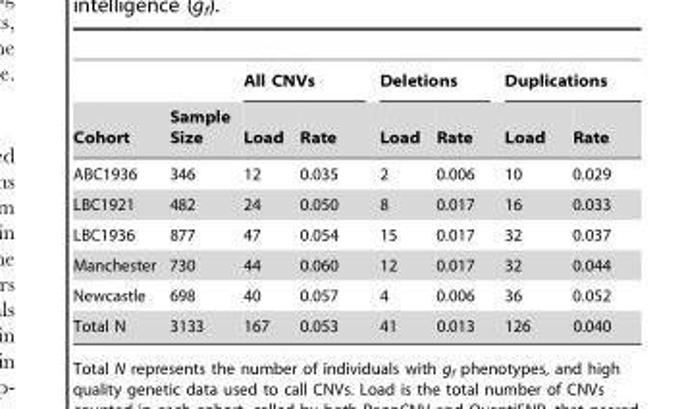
<table><thead><tr><td rowspan="2">Cohort</td><td rowspan="2">Sample Size</td><td colspan="2">All CNVs</td><td colspan="2">Deletions</td><td colspan="2">Duplications</td></tr><tr><td>Load</td><td>Rate</td><td>Load</td><td>Rate</td><td>Load</td><td>Rate</td></tr></thead><tbody><tr><td>ABC1936</td><td>346</td><td>12</td><td>0.035</td><td>2</td><td>0.006</td><td>10</td><td>0.029</td></tr><tr><td>LBC1921</td><td>482</td><td>24</td><td>0.050</td><td>8</td><td>0.017</td><td>16</td><td>0.033</td></tr><tr><td>LBC1936</td><td>877</td><td>47</td><td>0.054</td><td>15</td><td>0.017</td><td>32</td><td>0.037</td></tr><tr><td>Manchester</td><td>730</td><td>44</td><td>0.060</td><td>12</td><td>0.017</td><td>32</td><td>0.044</td></tr><tr><td>Newcastle</td><td>698</td><td>40</td><td>0.057</td><td>4</td><td>0.006</td><td>36</td><td>0.052</td></tr><tr><td>Total N</td><td>3133</td><td>167</td><td>0.053</td><td>41</td><td>0.013</td><td>126</td><td>0.040</td></tr></tbody></table>